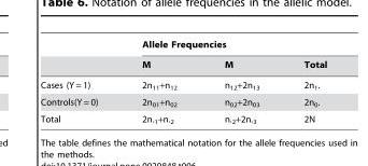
<table><thead><tr><td rowspan="2"></td><td colspan="3">Allele Frequencies</td></tr><tr><td>M</td><td>M</td><td>Total</td></tr></thead><tbody><tr><td>Cases (Y = 1)</td><td>2n<sub>11</sub>+n<sub>12</sub></td><td>n<sub>12</sub>+2n<sub>13</sub></td><td>2n<sub>1</sub>.</td></tr><tr><td>Controls(Y = 0)</td><td>2n<sub>01</sub>+n<sub>02</sub></td><td>n<sub>02</sub>+2n<sub>03</sub></td><td>2n<sub>0</sub>.</td></tr><tr><td>Total</td><td>2n.<sub>1</sub>+n.<sub>2</sub></td><td>n.<sub>2</sub>+2n.<sub>3</sub></td><td>2N</td></tr></tbody></table>